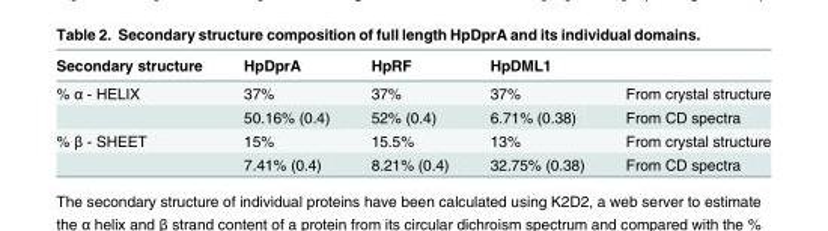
<table><thead><tr><td>Secondary structure</td><td>HpDprA</td><td>HpRF</td><td>HpDML1</td><td></td></tr></thead><tbody><tr><td rowspan="2">% α - HELIX</td><td>37%</td><td>37%</td><td>37%</td><td>From crystal structure</td></tr><tr><td>50.16% (0.4)</td><td>52% (0.4)</td><td>6.71% (0.38)</td><td>From CD spectra</td></tr><tr><td rowspan="2">% β - SHEET</td><td>15%</td><td>15.5%</td><td>13%</td><td>From crystal structure</td></tr><tr><td>7.41% (0.4)</td><td>8.21% (0.4)</td><td>32.75% (0.38)</td><td>From CD spectra</td></tr></tbody></table>